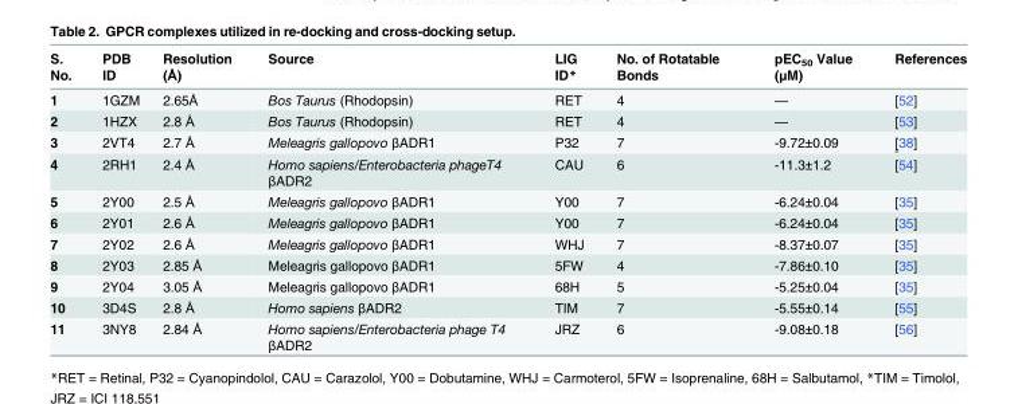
<table><thead><tr><td>S. No.</td><td>PDB ID</td><td>Resolution (Å)</td><td>Source</td><td>LIG ID*</td><td>No. of Rotatable Bonds</td><td>pEC<sub>50</sub> Value (μM)</td><td>References</td></tr></thead><tbody><tr><td>1</td><td>1GZM</td><td>2.65Å</td><td>Bos Taurus (Rhodopsin)</td><td>RET</td><td>4</td><td>—</td><td>[52]</td></tr><tr><td>2</td><td>1HZX</td><td>2.8 Å</td><td>Bos Taurus (Rhodopsin)</td><td>RET</td><td>4</td><td>—</td><td>[53]</td></tr><tr><td>3</td><td>2VT4</td><td>2.7 Å</td><td>Meleagris gallopovo βADR1</td><td>P32</td><td>7</td><td>-9.72±0.09</td><td>[38]</td></tr><tr><td>4</td><td>2RH1</td><td>2.4 Å</td><td>Homo sapiens/Enterobacteria phageT4 βADR2</td><td>CAU</td><td>6</td><td>-11.3±1.2</td><td>[54]</td></tr><tr><td>5</td><td>2Y00</td><td>2.5 Å</td><td>Meleagris gallopovo βADR1</td><td>Y00</td><td>7</td><td>-6.24±0.04</td><td>[35]</td></tr><tr><td>6</td><td>2Y01</td><td>2.6 Å</td><td>Meleagris gallopovo βADR1</td><td>Y00</td><td>7</td><td>-6.24±0.04</td><td>[35]</td></tr><tr><td>7</td><td>2Y02</td><td>2.6 Å</td><td>Meleagris gallopovo βADR1</td><td>WHJ</td><td>7</td><td>-8.37±0.07</td><td>[35]</td></tr><tr><td>8</td><td>2Y03</td><td>2.85 Å</td><td>Meleagris gallopovo βADR1</td><td>5FW</td><td>4</td><td>-7.86±0.10</td><td>[35]</td></tr><tr><td>9</td><td>2Y04</td><td>3.05 Å</td><td>Meleagris gallopovo βADR1</td><td>68H</td><td>5</td><td>-5.25±0.04</td><td>[35]</td></tr><tr><td>10</td><td>3D4S</td><td>2.8 Å</td><td>Homo sapiens βADR2</td><td>TIM</td><td>7</td><td>-5.55±0.14</td><td>[55]</td></tr><tr><td>11</td><td>3NY8</td><td>2.84 Å</td><td>Homo sapiens/Enterobacteria phage T4 βADR2</td><td>JRZ</td><td>6</td><td>-9.08±0.18</td><td>[56]</td></tr></tbody></table>